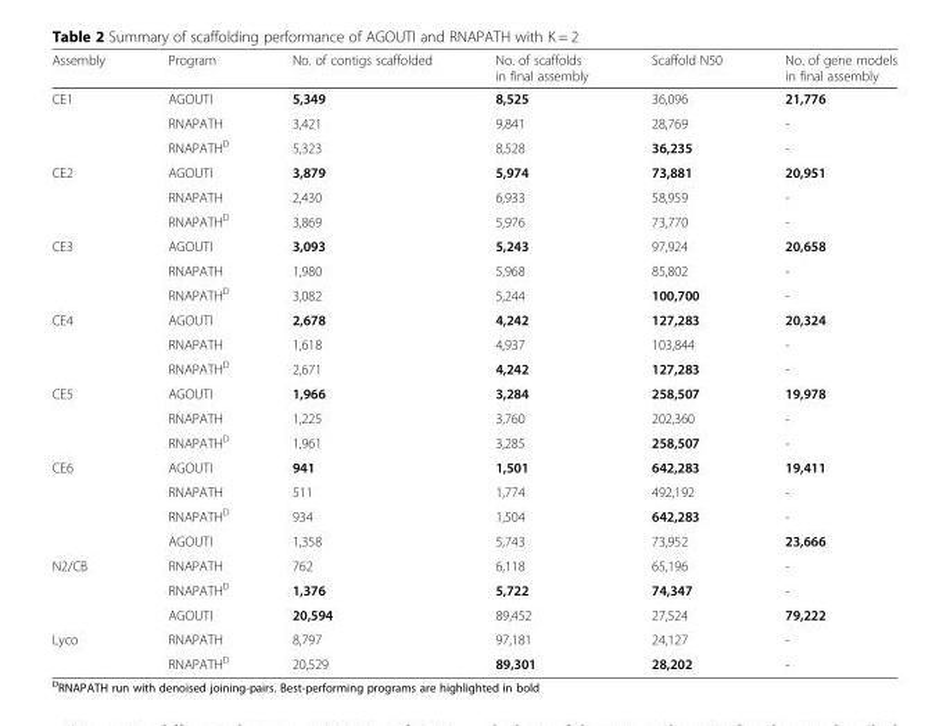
<table><thead><tr><td>Assembly</td><td>Program</td><td>No. of contigs scaffolded</td><td>No. of scaffolds in final assembly</td><td>Scaffold N50</td><td>No. of gene models in final assembly</td></tr></thead><tbody><tr><td rowspan="3">CE1</td><td>AGOUTI</td><td>5,349</td><td>8,525</td><td>36,096</td><td>21,776</td></tr><tr><td>RNAPATH</td><td>3,421</td><td>9,841</td><td>28,769</td><td>-</td></tr><tr><td>RNAPATH<sup>D</sup></td><td>5,323</td><td>8,528</td><td>36,235</td><td>-</td></tr><tr><td rowspan="3">CE2</td><td>AGOUTI</td><td>3,879</td><td>5,974</td><td>73,881</td><td>20,951</td></tr><tr><td>RNAPATH</td><td>2,430</td><td>6,933</td><td>58,959</td><td>-</td></tr><tr><td>RNAPATH<sup>D</sup></td><td>3,869</td><td>5,976</td><td>73,770</td><td>-</td></tr><tr><td rowspan="3">CE3</td><td>AGOUTI</td><td>3,093</td><td>5,243</td><td>97,924</td><td>20,658</td></tr><tr><td>RNAPATH</td><td>1,980</td><td>5,968</td><td>85,802</td><td>-</td></tr><tr><td>RNAPATH<sup>D</sup></td><td>3,082</td><td>5,244</td><td>100,700</td><td>-</td></tr><tr><td rowspan="3">CE4</td><td>AGOUTI</td><td>2,678</td><td>4,242</td><td>127,283</td><td>20,324</td></tr><tr><td>RNAPATH</td><td>1,618</td><td>4,937</td><td>103,844</td><td>-</td></tr><tr><td>RNAPATH<sup>D</sup></td><td>2,671</td><td>4,242</td><td>127,283</td><td>-</td></tr><tr><td rowspan="3">CE5</td><td>AGOUTI</td><td>1,966</td><td>3,284</td><td>258,507</td><td>19,978</td></tr><tr><td>RNAPATH</td><td>1,225</td><td>3,760</td><td>202,360</td><td>-</td></tr><tr><td>RNAPATH<sup>D</sup></td><td>1,961</td><td>3,285</td><td>258,507</td><td>-</td></tr><tr><td rowspan="4">CE6</td><td>AGOUTI</td><td>941</td><td>1,501</td><td>642,283</td><td>19,411</td></tr><tr><td>RNAPATH</td><td>511</td><td>1,774</td><td>492,192</td><td>-</td></tr><tr><td>RNAPATH<sup>D</sup></td><td>934</td><td>1,504</td><td>642,283</td><td>-</td></tr><tr><td>AGOUTI</td><td>1,358</td><td>5,743</td><td>73,952</td><td>23,666</td></tr><tr><td rowspan="3">N2/CB</td><td>RNAPATH</td><td>762</td><td>6,118</td><td>65,196</td><td>-</td></tr><tr><td>RNAPATH<sup>D</sup></td><td>1,376</td><td>5,722</td><td>74,347</td><td>-</td></tr><tr><td>AGOUTI</td><td>20,594</td><td>89,452</td><td>27,524</td><td>79,222</td></tr><tr><td rowspan="2">Lyco</td><td>RNAPATH</td><td>8,797</td><td>97,181</td><td>24,127</td><td>-</td></tr><tr><td>RNAPATH<sup>D</sup></td><td>20,529</td><td>89,301</td><td>28,202</td><td>-</td></tr></tbody></table>